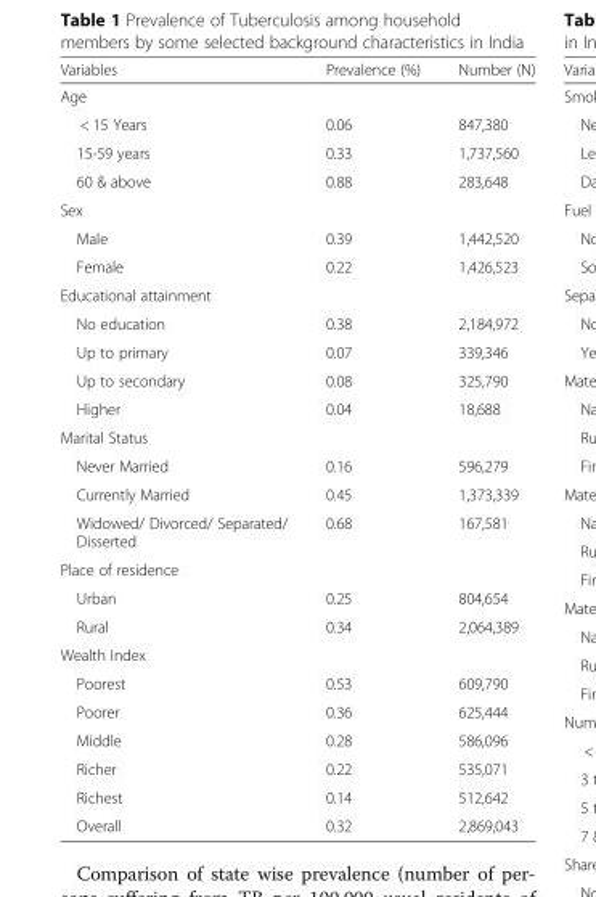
<table><thead><tr><td>Variables</td><td>Prevalence (%)</td><td>Number (N)</td></tr></thead><tbody><tr><td colspan="3">Age</td></tr><tr><td>&lt; 15 Years</td><td>0.06</td><td>847,380</td></tr><tr><td>15-59 years</td><td>0.33</td><td>1,737,560</td></tr><tr><td>60 &amp; above</td><td>0.88</td><td>283,648</td></tr><tr><td colspan="3">Sex</td></tr><tr><td>Male</td><td>0.39</td><td>1,442,520</td></tr><tr><td>Female</td><td>0.22</td><td>1,426,523</td></tr><tr><td colspan="3">Educational attainment</td></tr><tr><td>No education</td><td>0.38</td><td>2,184,972</td></tr><tr><td>Up to primary</td><td>0.07</td><td>339,346</td></tr><tr><td>Up to secondary</td><td>0.08</td><td>325,790</td></tr><tr><td>Higher</td><td>0.04</td><td>18,688</td></tr><tr><td colspan="3">Marital Status</td></tr><tr><td>Never Married</td><td>0.16</td><td>596,279</td></tr><tr><td>Currently Married</td><td>0.45</td><td>1,373,339</td></tr><tr><td>Widowed/ Divorced/ Separated/ Disserted</td><td>0.68</td><td>167,581</td></tr><tr><td colspan="3">Place of residence</td></tr><tr><td>Urban</td><td>0.25</td><td>804,654</td></tr><tr><td>Rural</td><td>0.34</td><td>2,064,389</td></tr><tr><td colspan="3">Wealth Index</td></tr><tr><td>Poorest</td><td>0.53</td><td>609,790</td></tr><tr><td>Poorer</td><td>0.36</td><td>625,444</td></tr><tr><td>Middle</td><td>0.28</td><td>586,096</td></tr><tr><td>Richer</td><td>0.22</td><td>535,071</td></tr><tr><td>Richest</td><td>0.14</td><td>512,642</td></tr><tr><td>Overall</td><td>0.32</td><td>2,869,043</td></tr></tbody></table>